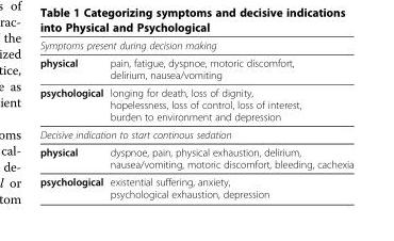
<table><tbody><tr><td colspan="2">Symptoms present during decision making</td></tr><tr><td>physical</td><td>pain, fatigue, dyspnoe, motoric discomfort, delirium, nausea/vomiting</td></tr><tr><td>psychological</td><td>longing for death, loss of dignity, hopelessness, loss of control, loss of interest, burden to environment and depression</td></tr><tr><td colspan="2">Decisive indication to start continous sedation</td></tr><tr><td>physical</td><td>dyspnoe, pain, physical exhaustion, delirium, nausea/vomiting, motoric discomfort, bleeding, cachexia</td></tr><tr><td>psychological</td><td>existential suffering, anxiety, psychological exhaustion, depression</td></tr></tbody></table>